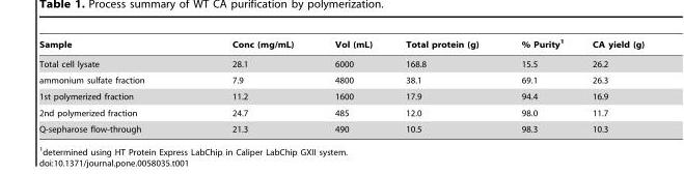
<table><thead><tr><td>Sample</td><td>Conc (mg/mL)</td><td>Vol (mL)</td><td>Total protein (g)</td><td>% Purity<sup>1</sup></td><td>CA yield (g)</td></tr></thead><tbody><tr><td>Total cell lysate</td><td>28.1</td><td>6000</td><td>168.8</td><td>15.5</td><td>26.2</td></tr><tr><td>ammonium sulfate fraction</td><td>7.9</td><td>4800</td><td>38.1</td><td>69.1</td><td>26.3</td></tr><tr><td>1st polymerized fraction</td><td>11.2</td><td>1600</td><td>17.9</td><td>94.4</td><td>16.9</td></tr><tr><td>2nd polymerized fraction</td><td>24.7</td><td>485</td><td>12.0</td><td>98.0</td><td>11.7</td></tr><tr><td>Q-sepharose flow-through</td><td>21.3</td><td>490</td><td>10.5</td><td>98.3</td><td>10.3</td></tr></tbody></table>